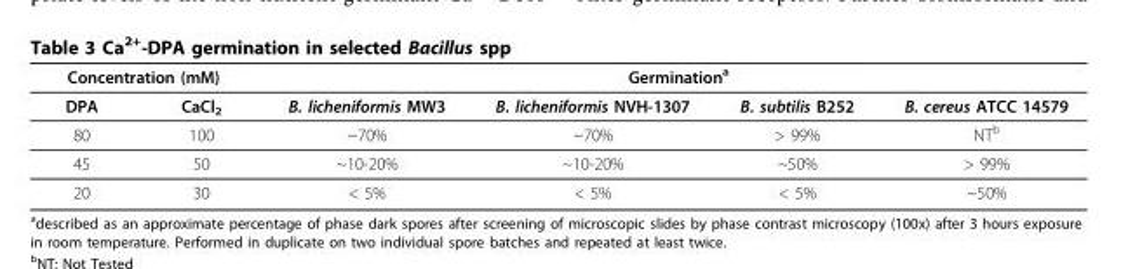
<table><thead><tr><td colspan="2">Concentration (mM)</td><td colspan="4">Germination<sup>a</sup></td></tr><tr><td>DPA</td><td>CaCl<sub>2</sub></td><td>B. licheniformis MW3</td><td>B. licheniformis NVH-1307</td><td>B. subtilis B252</td><td>B. cereus ATCC 14579</td></tr></thead><tbody><tr><td>80</td><td>100</td><td>~70%</td><td>~70%</td><td>&gt; 99%</td><td>NT<sup>b</sup></td></tr><tr><td>45</td><td>50</td><td>~10-20%</td><td>~10-20%</td><td>~50%</td><td>&gt; 99%</td></tr><tr><td>20</td><td>30</td><td>&lt; 5%</td><td>&lt; 5%</td><td>&lt; 5%</td><td>~50%</td></tr></tbody></table>